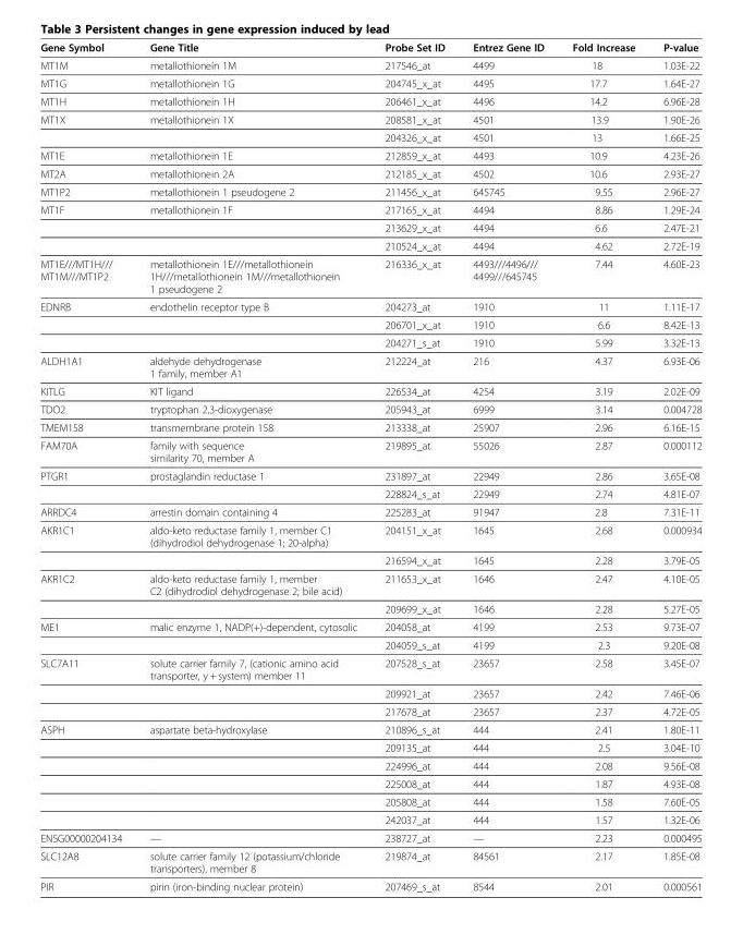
<table><thead><tr><td>Gene Symbol</td><td>Gene Title</td><td>Probe Set ID</td><td>Entrez Gene ID</td><td>Fold Increase</td><td>P-value</td></tr></thead><tbody><tr><td>MT1M</td><td>metallothionein 1M</td><td>217546_at</td><td>4499</td><td>18</td><td>1.03E-22</td></tr><tr><td>MT1G</td><td>metallothionein 1G</td><td>204745_x_at</td><td>4495</td><td>17.7</td><td>1.64E-27</td></tr><tr><td>MT1H</td><td>metallothionein 1H</td><td>206461_x_at</td><td>4496</td><td>14.2</td><td>6.96E-28</td></tr><tr><td rowspan="2">MT1X</td><td>metallothionein 1X</td><td>208581_x_at</td><td>4501</td><td>13.9</td><td>1.90E-26</td></tr><tr><td></td><td>204326_x_at</td><td>4501</td><td>13</td><td>1.66E-25</td></tr><tr><td>MT1E</td><td>metallothionein 1E</td><td>212859_x_at</td><td>4493</td><td>10.9</td><td>4.23E-26</td></tr><tr><td>MT2A</td><td>metallothionein 2A</td><td>212185_x_at</td><td>4502</td><td>10.6</td><td>2.93E-27</td></tr><tr><td>MT1P2</td><td>metallothionein 1 pseudogene 2</td><td>211456_x_at</td><td>645745</td><td>9.55</td><td>2.96E-27</td></tr><tr><td rowspan="3">MT1F</td><td>metallothionein 1F</td><td>217165_x_at</td><td>4494</td><td>8.86</td><td>1.29E-24</td></tr><tr><td></td><td>213629_x_at</td><td>4494</td><td>6.6</td><td>2.47E-21</td></tr><tr><td></td><td>210524_x_at</td><td>4494</td><td>4.62</td><td>2.72E-19</td></tr><tr><td>MT1E///MT1H/// MT1M///MT1P2</td><td>metallothionein 1E///metallothionein 1H///metallothionein 1M///metallothionein 1 pseudogene 2</td><td>216336_x_at</td><td>4493///4496/// 4499///645745</td><td>7.44</td><td>4.60E-23</td></tr><tr><td rowspan="3">EDNRB</td><td>endothelin receptor type B</td><td>204273_at</td><td>1910</td><td>11</td><td>1.11E-17</td></tr><tr><td></td><td>206701_x_at</td><td>1910</td><td>6.6</td><td>8.42E-13</td></tr><tr><td></td><td>204271_s_at</td><td>1910</td><td>5.99</td><td>3.32E-13</td></tr><tr><td>ALDH1A1</td><td>aldehyde dehydrogenase 1 family, member A1</td><td>212224_at</td><td>216</td><td>4.37</td><td>6.93E-06</td></tr><tr><td>KITLG</td><td>KIT ligand</td><td>226534_at</td><td>4254</td><td>3.19</td><td>2.02E-09</td></tr><tr><td>TDO2</td><td>tryptophan 2,3-dioxygenase</td><td>205943_at</td><td>6999</td><td>3.14</td><td>0.004728</td></tr><tr><td>TMEM158</td><td>transmembrane protein 158</td><td>213338_at</td><td>25907</td><td>2.96</td><td>6.16E-15</td></tr><tr><td>FAM70A</td><td>family with sequence similarity 70, member A</td><td>219895_at</td><td>55026</td><td>2.87</td><td>0.000112</td></tr><tr><td rowspan="2">PTGR1</td><td>prostaglandin reductase 1</td><td>231897_at</td><td>22949</td><td>2.86</td><td>3.65E-08</td></tr><tr><td></td><td>228824_s_at</td><td>22949</td><td>2.74</td><td>4.81E-07</td></tr><tr><td>ARRDC4</td><td>arrestin domain containing 4</td><td>225283_at</td><td>91947</td><td>2.8</td><td>7.31E-11</td></tr><tr><td rowspan="2">AKR1C1</td><td>aldo-keto reductase family 1, member C1 (dihydrodiol dehydrogenase 1; 20-alpha)</td><td>204151_x_at</td><td>1645</td><td>2.68</td><td>0.000934</td></tr><tr><td></td><td>216594_x_at</td><td>1645</td><td>2.28</td><td>3.79E-05</td></tr><tr><td rowspan="2">AKR1C2</td><td>aldo-keto reductase family 1, member C2 (dihydrodiol dehydrogenase 2; bile acid)</td><td>211653_x_at</td><td>1646</td><td>2.47</td><td>4.10E-05</td></tr><tr><td></td><td>209699_x_at</td><td>1646</td><td>2.28</td><td>5.27E-05</td></tr><tr><td rowspan="2">ME1</td><td>malic enzyme 1, NADP(+)-dependent, cytosolic</td><td>204058_at</td><td>4199</td><td>2.53</td><td>9.73E-07</td></tr><tr><td></td><td>204059_s_at</td><td>4199</td><td>2.3</td><td>9.20E-08</td></tr><tr><td rowspan="3">SLC7A11</td><td>solute carrier family 7, (cationic amino acid transporter, y + system) member 11</td><td>207528_s_at</td><td>23657</td><td>2.58</td><td>3.45E-07</td></tr><tr><td></td><td>209921_at</td><td>23657</td><td>2.42</td><td>7.46E-06</td></tr><tr><td></td><td>217678_at</td><td>23657</td><td>2.37</td><td>4.72E-05</td></tr><tr><td rowspan="6">ASPH</td><td>aspartate beta-hydroxylase</td><td>210896_s_at</td><td>444</td><td>2.41</td><td>1.80E-11</td></tr><tr><td></td><td>209135_at</td><td>444</td><td>2.5</td><td>3.04E-10</td></tr><tr><td></td><td>224996_at</td><td>444</td><td>2.08</td><td>9.56E-08</td></tr><tr><td></td><td>225008_at</td><td>444</td><td>1.87</td><td>4.93E-08</td></tr><tr><td></td><td>205808_at</td><td>444</td><td>1.58</td><td>7.60E-05</td></tr><tr><td></td><td>242037_at</td><td>444</td><td>1.57</td><td>1.32E-06</td></tr><tr><td>ENSG00000204134</td><td>—</td><td>238727_at</td><td>—</td><td>2.23</td><td>0.000495</td></tr><tr><td>SLC12A8</td><td>solute carrier family 12 (potassium/chloride transporters), member 8</td><td>219874_at</td><td>84561</td><td>2.17</td><td>1.85E-08</td></tr><tr><td>PIR</td><td>pirin (iron-binding nuclear protein)</td><td>207469_s_at</td><td>8544</td><td>2.01</td><td>0.000561</td></tr></tbody></table>